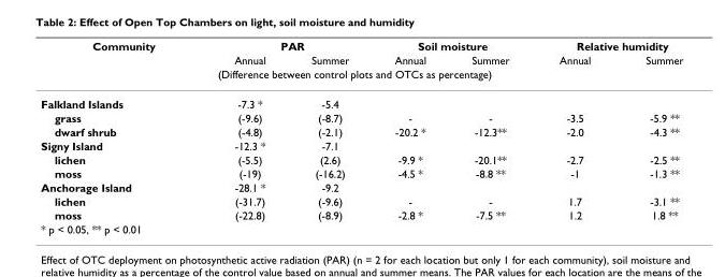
<table><thead><tr><td rowspan="3">Community</td><td colspan="2">PAR</td><td colspan="2">Soil moisture</td><td colspan="2">Relative humidity</td></tr><tr><td>Annual</td><td>Summer</td><td>Annual</td><td>Summer</td><td>Annual</td><td>Summer</td></tr><tr><td colspan="6">(Difference between control plots and OTCs as percentage)</td></tr></thead><tbody><tr><td>Falkland Islands</td><td>-7.3 *</td><td>-5.4</td><td></td><td></td><td></td><td></td></tr><tr><td>grass</td><td>(-9.6)</td><td>(-8.7)</td><td>-</td><td>-</td><td>-3.5</td><td>-5.9 **</td></tr><tr><td>dwarf shrub</td><td>(-4.8)</td><td>(-2.1)</td><td>-20.2 *</td><td>-12.3**</td><td>-2.0</td><td>-4.3 **</td></tr><tr><td>Signy Island</td><td>-12.3 *</td><td>-7.1</td><td></td><td></td><td></td><td></td></tr><tr><td>lichen</td><td>(-5.5)</td><td>(2.6)</td><td>-9.9 *</td><td>-20.1**</td><td>-2.7</td><td>-2.5 **</td></tr><tr><td>moss</td><td>(-19)</td><td>(-16.2)</td><td>-4.5 *</td><td>-8.8 **</td><td>-1</td><td>-1.3 **</td></tr><tr><td>Anchorage Island</td><td>-28.1 *</td><td>-9.2</td><td></td><td></td><td></td><td></td></tr><tr><td>lichen</td><td>(-31.7)</td><td>(-9.6)</td><td>-</td><td>-</td><td>1.7</td><td>-3.1 **</td></tr><tr><td>moss</td><td>(-22.8)</td><td>(-8.9)</td><td>-2.8 *</td><td>-7.5 **</td><td>1.2</td><td>1.8 **</td></tr><tr><td colspan="7">* p &lt; 0.05, ** p &lt; 0.01</td></tr></tbody></table>